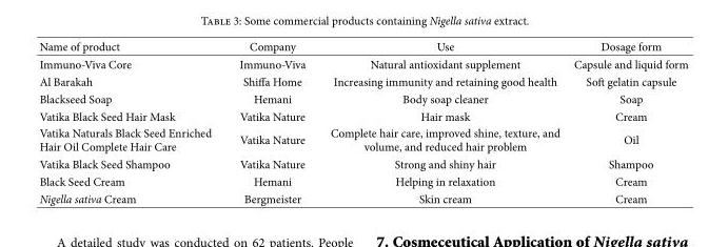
<table><thead><tr><td>Name of product</td><td>Company</td><td>Use</td><td>Dosage form</td></tr></thead><tbody><tr><td>Immuno-Viva Core</td><td>Immuno-Viva</td><td>Natural antioxidant supplement</td><td>Capsule and liquid form</td></tr><tr><td>Al Barakah</td><td>Shiffa Home</td><td>Increasing immunity and retaining good health</td><td>Soft gelatin capsule</td></tr><tr><td>Blackseed Soap</td><td>Hemani</td><td>Body soap cleaner</td><td>Soap</td></tr><tr><td>Vatika Black Seed Hair Mask</td><td>Vatika Nature</td><td>Hair mask</td><td>Cream</td></tr><tr><td>Vatika Naturals Black Seed Enriched Hair Oil Complete Hair Care</td><td>Vatika Nature</td><td>Complete hair care, improved shine, texture, and volume, and reduced hair problem</td><td>Oil</td></tr><tr><td>Vatika Black Seed Shampoo</td><td>Vatika Nature</td><td>Strong and shiny hair</td><td>Shampoo</td></tr><tr><td>Black Seed Cream</td><td>Hemani</td><td>Helping in relaxation</td><td>Cream</td></tr><tr><td>Nigella sativa Cream</td><td>Bergmeister</td><td>Skin cream</td><td>Cream</td></tr></tbody></table>